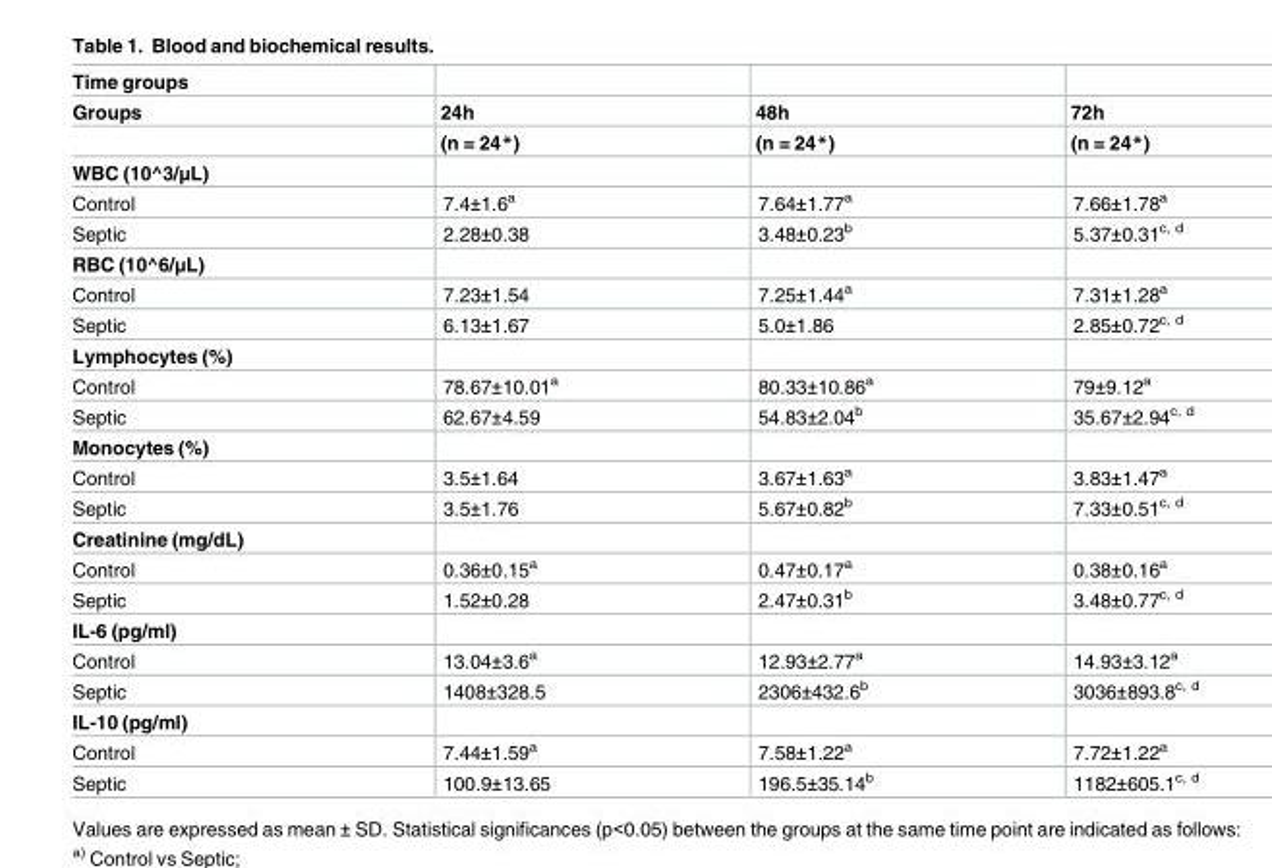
<table><thead><tr><td rowspan="3">Time groups Groups</td><td rowspan="3">24h (n = 24*)</td><td rowspan="3">48h (n = 24*)</td><td rowspan="3">72h (n = 24*)</td></tr><tr></tr><tr></tr></thead><tbody><tr><td colspan="4">WBC (10^3/μL)</td></tr><tr><td>Control</td><td>7.4±1.6<sup>a</sup></td><td>7.64±1.77<sup>a</sup></td><td>7.66±1.78<sup>a</sup></td></tr><tr><td>Septic</td><td>2.28±0.38</td><td>3.48±0.23<sup>b</sup></td><td>5.37±0.31<sup>c, d</sup></td></tr><tr><td colspan="4">RBC (10^6/μL)</td></tr><tr><td>Control</td><td>7.23±1.54</td><td>7.25±1.44<sup>a</sup></td><td>7.31±1.28<sup>a</sup></td></tr><tr><td>Septic</td><td>6.13±1.67</td><td>5.0±1.86</td><td>2.85±0.72<sup>c, d</sup></td></tr><tr><td colspan="4">Lymphocytes (%)</td></tr><tr><td>Control</td><td>78.67±10.01<sup>a</sup></td><td>80.33±10.86<sup>a</sup></td><td>79±9.12<sup>a</sup></td></tr><tr><td>Septic</td><td>62.67±4.59</td><td>54.83±2.04<sup>b</sup></td><td>35.67±2.94<sup>c, d</sup></td></tr><tr><td colspan="4">Monocytes (%)</td></tr><tr><td>Control</td><td>3.5±1.64</td><td>3.67±1.63<sup>a</sup></td><td>3.83±1.47<sup>a</sup></td></tr><tr><td>Septic</td><td>3.5±1.76</td><td>5.67±0.82<sup>b</sup></td><td>7.33±0.51<sup>c, d</sup></td></tr><tr><td colspan="4">Creatinine (mg/dL)</td></tr><tr><td>Control</td><td>0.36±0.15<sup>a</sup></td><td>0.47±0.17<sup>a</sup></td><td>0.38±0.16<sup>a</sup></td></tr><tr><td>Septic</td><td>1.52±0.28</td><td>2.47±0.31<sup>b</sup></td><td>3.48±0.77<sup>c, d</sup></td></tr><tr><td colspan="4">IL-6 (pg/ml)</td></tr><tr><td>Control</td><td>13.04±3.6<sup>a</sup></td><td>12.93±2.77<sup>a</sup></td><td>14.93±3.12<sup>a</sup></td></tr><tr><td>Septic</td><td>1408±328.5</td><td>2306±432.6<sup>b</sup></td><td>3036±893.8<sup>c, d</sup></td></tr><tr><td colspan="4">IL-10 (pg/ml)</td></tr><tr><td>Control</td><td>7.44±1.59<sup>a</sup></td><td>7.58±1.22<sup>a</sup></td><td>7.72±1.22<sup>a</sup></td></tr><tr><td>Septic</td><td>100.9±13.65</td><td>196.5±35.14<sup>b</sup></td><td>1182±605.1<sup>c, d</sup></td></tr></tbody></table>